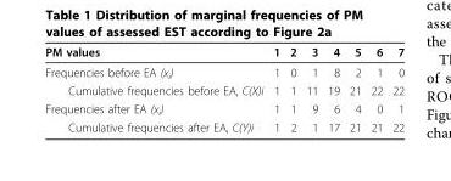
<table><thead><tr><td>PM values</td><td>1</td><td>2</td><td>3</td><td>4</td><td>5</td><td>6</td><td>7</td></tr></thead><tbody><tr><td>Frequencies before EA (x<sub>i</sub>)</td><td>1</td><td>0</td><td>1</td><td>8</td><td>2</td><td>1</td><td>0</td></tr><tr><td>Cumulative frequencies before EA, C(X)i</td><td>1</td><td>1</td><td>11</td><td>19</td><td>21</td><td>22</td><td>22</td></tr><tr><td>Frequencies after EA (x<sub>i</sub>)</td><td>1</td><td>1</td><td>9</td><td>6</td><td>4</td><td>0</td><td>1</td></tr><tr><td>Cumulative frequencies after EA, C(Y)i</td><td>1</td><td>2</td><td>1</td><td>17</td><td>21</td><td>21</td><td>22</td></tr></tbody></table>